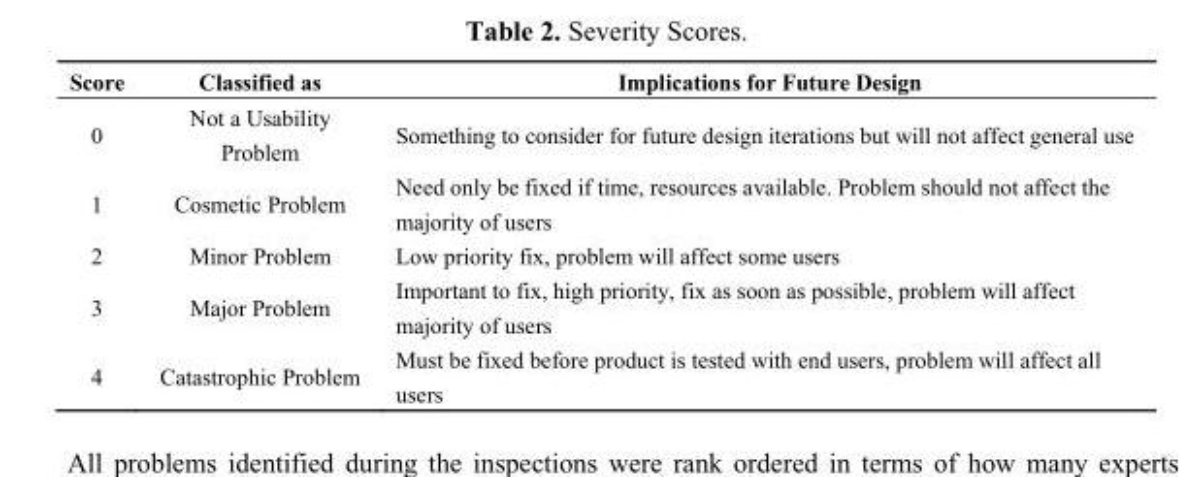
<table><thead><tr><td>Score</td><td>Classified as</td><td>Implications for Future Design</td></tr></thead><tbody><tr><td>0</td><td>Not a Usability Problem</td><td>Something to consider for future design iterations but will not affect general use</td></tr><tr><td>1</td><td>Cosmetic Problem</td><td>Need only be fixed if time, resources available. Problem should not affect the majority of users</td></tr><tr><td>2</td><td>Minor Problem</td><td>Low priority fix, problem will affect some users</td></tr><tr><td>3</td><td>Major Problem</td><td>Important to fix, high priority, fix as soon as possible, problem will affect majority of users</td></tr><tr><td>4</td><td>Catastrophic Problem</td><td>Must be fixed before product is tested with end users, problem will affect all users</td></tr></tbody></table>